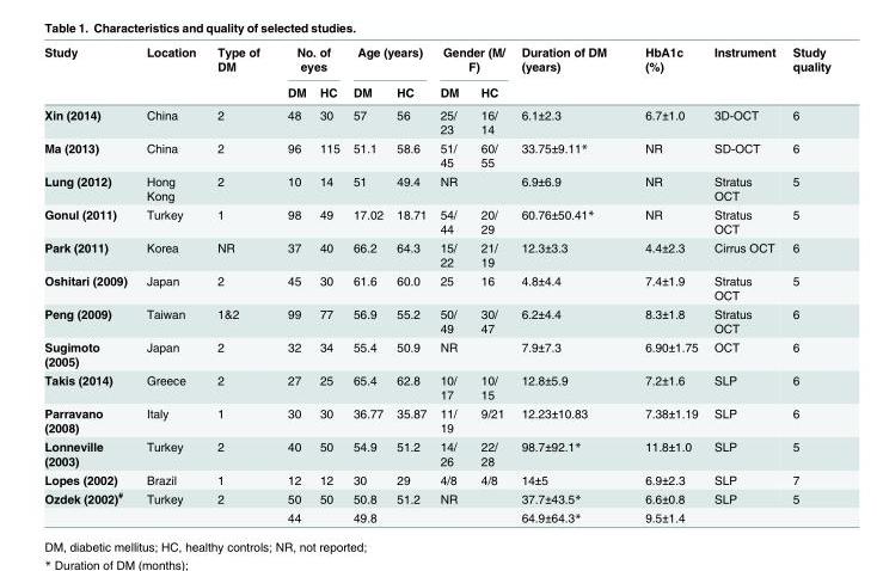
<table><thead><tr><td rowspan="2">Study</td><td rowspan="2">Location</td><td rowspan="2">Type of DM</td><td colspan="2">No. of eyes</td><td colspan="2">Age (years)</td><td colspan="2">Gender (M/ F)</td><td rowspan="2">Duration of DM (years)</td><td rowspan="2">HbA1c (%)</td><td rowspan="2">Instrument</td><td rowspan="2">Study quality</td></tr><tr><td>DM</td><td>HC</td><td>DM</td><td>HC</td><td>DM</td><td>HC</td></tr></thead><tbody><tr><td>Xin (2014)</td><td>China</td><td>2</td><td>48</td><td>30</td><td>57</td><td>56</td><td>25/ 23</td><td>16/ 14</td><td>6.1±2.3</td><td>6.7±1.0</td><td>3D-OCT</td><td>6</td></tr><tr><td>Ma (2013)</td><td>China</td><td>2</td><td>96</td><td>115</td><td>51.1</td><td>58.6</td><td>51/ 45</td><td>60/ 55</td><td>33.75±9.11*</td><td>NR</td><td>SD-OCT</td><td>6</td></tr><tr><td>Lung (2012)</td><td>Hong Kong</td><td>2</td><td>10</td><td>14</td><td>51</td><td>49.4</td><td>NR</td><td></td><td>6.9±6.9</td><td>NR</td><td>Stratus OCT</td><td>5</td></tr><tr><td>Gonul (2011)</td><td>Turkey</td><td>1</td><td>98</td><td>49</td><td>17.02</td><td>18.71</td><td>54/ 44</td><td>20/ 29</td><td>60.76±50.41*</td><td>NR</td><td>Stratus OCT</td><td>5</td></tr><tr><td>Park (2011)</td><td>Korea</td><td>NR</td><td>37</td><td>40</td><td>66.2</td><td>64.3</td><td>15/ 22</td><td>21/ 19</td><td>12.3±3.3</td><td>4.4±2.3</td><td>Cirrus OCT</td><td>6</td></tr><tr><td>Oshitari (2009)</td><td>Japan</td><td>2</td><td>45</td><td>30</td><td>61.6</td><td>60.0</td><td>25</td><td>16</td><td>4.8±4.4</td><td>7.4±1.9</td><td>Stratus OCT</td><td>5</td></tr><tr><td>Peng (2009)</td><td>Taiwan</td><td>1&amp;2</td><td>99</td><td>77</td><td>56.9</td><td>55.2</td><td>50/ 49</td><td>30/ 47</td><td>6.2±4.4</td><td>8.3±1.8</td><td>Stratus OCT</td><td>6</td></tr><tr><td>Sugimoto (2005)</td><td>Japan</td><td>2</td><td>32</td><td>34</td><td>55.4</td><td>50.9</td><td>NR</td><td></td><td>7.9±7.3</td><td>6.90±1.75</td><td>OCT</td><td>6</td></tr><tr><td>Takis (2014)</td><td>Greece</td><td>2</td><td>27</td><td>25</td><td>65.4</td><td>62.8</td><td>10/ 17</td><td>10/ 15</td><td>12.8±5.9</td><td>7.2±1.6</td><td>SLP</td><td>6</td></tr><tr><td>Parravano (2008)</td><td>Italy</td><td>1</td><td>30</td><td>30</td><td>36.77</td><td>35.87</td><td>11/ 19</td><td>9/21</td><td>12.23±10.83</td><td>7.38±1.19</td><td>SLP</td><td>6</td></tr><tr><td>Lonneville (2003)</td><td>Turkey</td><td>2</td><td>40</td><td>50</td><td>54.9</td><td>51.2</td><td>14/ 26</td><td>22/ 28</td><td>98.7±92.1*</td><td>11.8±1.0</td><td>SLP</td><td>5</td></tr><tr><td>Lopes (2002)</td><td>Brazil</td><td>1</td><td>12</td><td>12</td><td>30</td><td>29</td><td>4/8</td><td>4/8</td><td>14±5</td><td>6.9±2.3</td><td>SLP</td><td>7</td></tr><tr><td rowspan="2">Ozdek (2002)<sup>#</sup></td><td>Turkey</td><td>2</td><td>50</td><td>50</td><td>50.8</td><td>51.2</td><td>NR</td><td></td><td>37.7±43.5*</td><td>6.6±0.8</td><td>SLP</td><td>5</td></tr><tr><td></td><td></td><td>44</td><td></td><td>49.8</td><td></td><td></td><td></td><td>64.9±64.3*</td><td>9.5±1.4</td><td></td><td></td></tr></tbody></table>